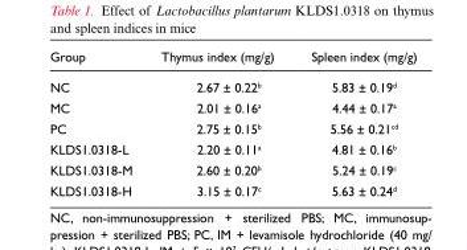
<table><thead><tr><td>Group</td><td>Thymus index (mg/g)</td><td>Spleen index (mg/g)</td></tr></thead><tbody><tr><td>NC</td><td>2.67 ± 0.22<sup>b</sup></td><td>5.83 ± 0.19<sup>d</sup></td></tr><tr><td>MC</td><td>2.01 ± 0.16<sup>a</sup></td><td>4.44 ± 0.17<sup>a</sup></td></tr><tr><td>PC</td><td>2.75 ± 0.15<sup>b</sup></td><td>5.56 ± 0.21<sup>cd</sup></td></tr><tr><td>KLDS1.0318-L</td><td>2.20 ± 0.11<sup>a</sup></td><td>4.81 ± 0.16<sup>b</sup></td></tr><tr><td>KLDS1.0318-M</td><td>2.60 ± 0.20<sup>b</sup></td><td>5.24 ± 0.19<sup>c</sup></td></tr><tr><td>KLDS1.0318-H</td><td>3.15 ± 0.17<sup>c</sup></td><td>5.63 ± 0.24<sup>d</sup></td></tr></tbody></table>